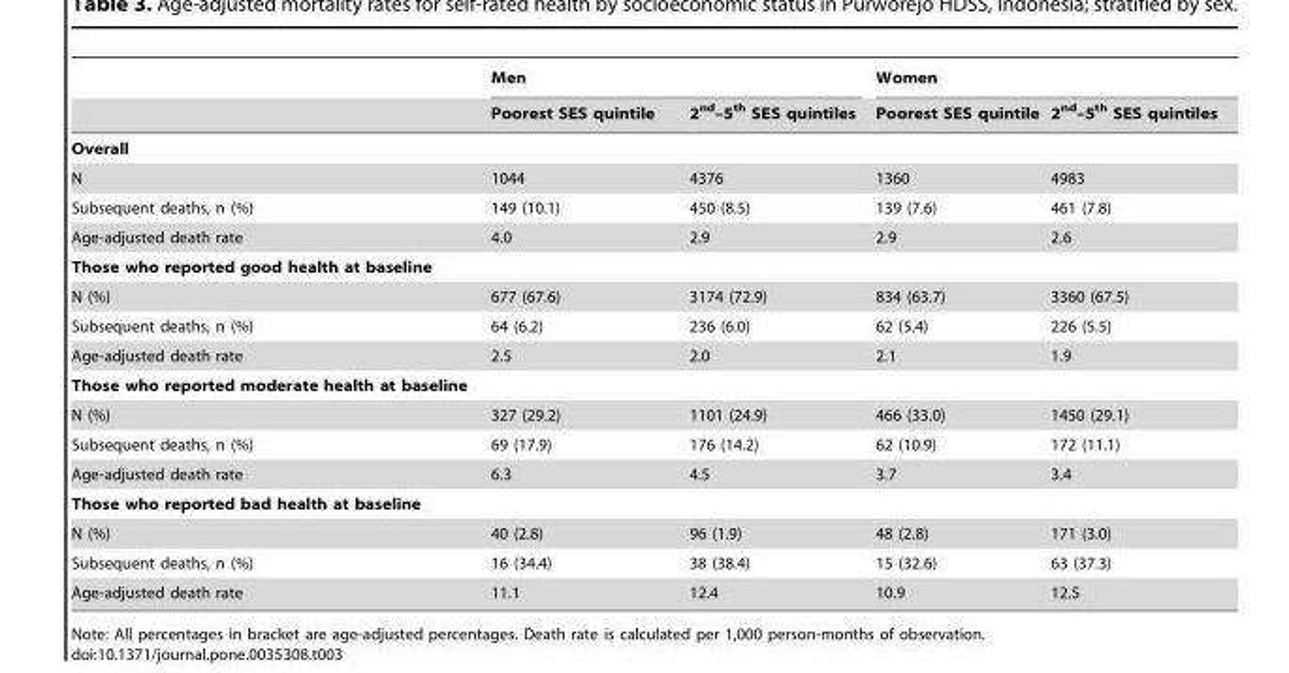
<table><thead><tr><td rowspan="2"></td><td colspan="2">Men</td><td colspan="2">Women</td></tr><tr><td>Poorest SES quintile</td><td>2<sup>nd</sup>–5<sup>th</sup> SES quintiles</td><td>Poorest SES quintile</td><td>2<sup>nd</sup>–5<sup>th</sup> SES quintiles</td></tr></thead><tbody><tr><td colspan="5">Overall</td></tr><tr><td>N</td><td>1044</td><td>4376</td><td>1360</td><td>4983</td></tr><tr><td>Subsequent deaths, n (%)</td><td>149 (10.1)</td><td>450 (8.5)</td><td>139 (7.6)</td><td>461 (7.8)</td></tr><tr><td>Age-adjusted death rate</td><td>4.0</td><td>2.9</td><td>2.9</td><td>2.6</td></tr><tr><td colspan="5">Those who reported good health at baseline</td></tr><tr><td>N (%)</td><td>677 (67.6)</td><td>3174 (72.9)</td><td>834 (63.7)</td><td>3360 (67.5)</td></tr><tr><td>Subsequent deaths, n (%)</td><td>64 (6.2)</td><td>236 (6.0)</td><td>62 (5.4)</td><td>226 (5.5)</td></tr><tr><td>Age-adjusted death rate</td><td>2.5</td><td>2.0</td><td>2.1</td><td>1.9</td></tr><tr><td colspan="5">Those who reported moderate health at baseline</td></tr><tr><td>N (%)</td><td>327 (29.2)</td><td>1101 (24.9)</td><td>466 (33.0)</td><td>1450 (29.1)</td></tr><tr><td>Subsequent deaths, n (%)</td><td>69 (17.9)</td><td>176 (14.2)</td><td>62 (10.9)</td><td>172 (11.1)</td></tr><tr><td>Age-adjusted death rate</td><td>6.3</td><td>4.5</td><td>3.7</td><td>3.4</td></tr><tr><td colspan="5">Those who reported bad health at baseline</td></tr><tr><td>N (%)</td><td>40 (2.8)</td><td>96 (1.9)</td><td>48 (2.8)</td><td>171 (3.0)</td></tr><tr><td>Subsequent deaths, n (%)</td><td>16 (34.4)</td><td>38 (38.4)</td><td>15 (32.6)</td><td>63 (37.3)</td></tr><tr><td>Age-adjusted death rate</td><td>11.1</td><td>12.4</td><td>10.9</td><td>12.5</td></tr></tbody></table>